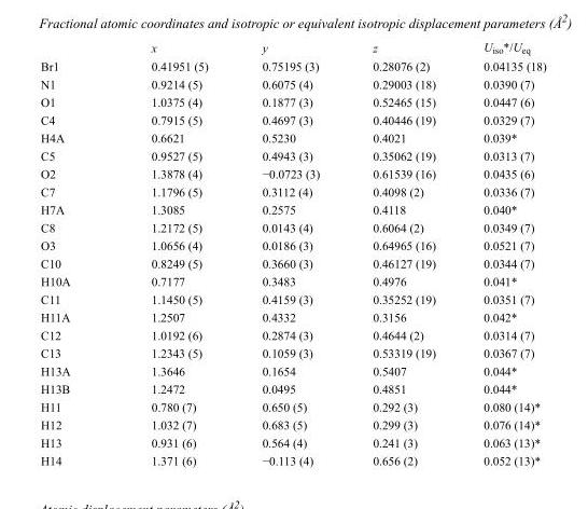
<table><thead><tr><td></td><td>x</td><td>y</td><td>z</td><td>U<sub>iso</sub>*/U<sub>eq</sub></td></tr></thead><tbody><tr><td>Br1</td><td>0.41951 (5)</td><td>0.75195 (3)</td><td>0.28076 (2)</td><td>0.04135 (18)</td></tr><tr><td>N1</td><td>0.9214 (5)</td><td>0.6075 (4)</td><td>0.29003 (18)</td><td>0.0390 (7)</td></tr><tr><td>O1</td><td>1.0375 (4)</td><td>0.1877 (3)</td><td>0.52465 (15)</td><td>0.0447 (6)</td></tr><tr><td>C4</td><td>0.7915 (5)</td><td>0.4697 (3)</td><td>0.40446 (19)</td><td>0.0329 (7)</td></tr><tr><td>H4A</td><td>0.6621</td><td>0.5230</td><td>0.4021</td><td>0.039*</td></tr><tr><td>C5</td><td>0.9527 (5)</td><td>0.4943 (3)</td><td>0.35062 (19)</td><td>0.0313 (7)</td></tr><tr><td>O2</td><td>1.3878 (4)</td><td>−0.0723 (3)</td><td>0.61539 (16)</td><td>0.0435 (6)</td></tr><tr><td>C7</td><td>1.1796 (5)</td><td>0.3112 (4)</td><td>0.4098 (2)</td><td>0.0336 (7)</td></tr><tr><td>H7A</td><td>1.3085</td><td>0.2575</td><td>0.4118</td><td>0.040*</td></tr><tr><td>C8</td><td>1.2172 (5)</td><td>0.0143 (4)</td><td>0.6064 (2)</td><td>0.0349 (7)</td></tr><tr><td>O3</td><td>1.0656 (4)</td><td>0.0186 (3)</td><td>0.64965 (16)</td><td>0.0521 (7)</td></tr><tr><td>C10</td><td>0.8249 (5)</td><td>0.3660 (3)</td><td>0.46127 (19)</td><td>0.0344 (7)</td></tr><tr><td>H10A</td><td>0.7177</td><td>0.3483</td><td>0.4976</td><td>0.041*</td></tr><tr><td>C11</td><td>1.1450 (5)</td><td>0.4159 (3)</td><td>0.35252 (19)</td><td>0.0351 (7)</td></tr><tr><td>H11A</td><td>1.2507</td><td>0.4332</td><td>0.3156</td><td>0.042*</td></tr><tr><td>C12</td><td>1.0192 (6)</td><td>0.2874 (3)</td><td>0.4644 (2)</td><td>0.0314 (7)</td></tr><tr><td>C13</td><td>1.2343 (5)</td><td>0.1059 (3)</td><td>0.53319 (19)</td><td>0.0367 (7)</td></tr><tr><td>H13A</td><td>1.3646</td><td>0.1654</td><td>0.5407</td><td>0.044*</td></tr><tr><td>H13B</td><td>1.2472</td><td>0.0495</td><td>0.4851</td><td>0.044*</td></tr><tr><td>H11</td><td>0.780 (7)</td><td>0.650 (5)</td><td>0.292 (3)</td><td>0.080 (14)*</td></tr><tr><td>H12</td><td>1.032 (7)</td><td>0.683 (5)</td><td>0.299 (3)</td><td>0.076 (14)*</td></tr><tr><td>H13</td><td>0.931 (6)</td><td>0.564 (4)</td><td>0.241 (3)</td><td>0.063 (13)*</td></tr><tr><td>H14</td><td>1.371 (6)</td><td>−0.113 (4)</td><td>0.656 (2)</td><td>0.052 (13)*</td></tr></tbody></table>